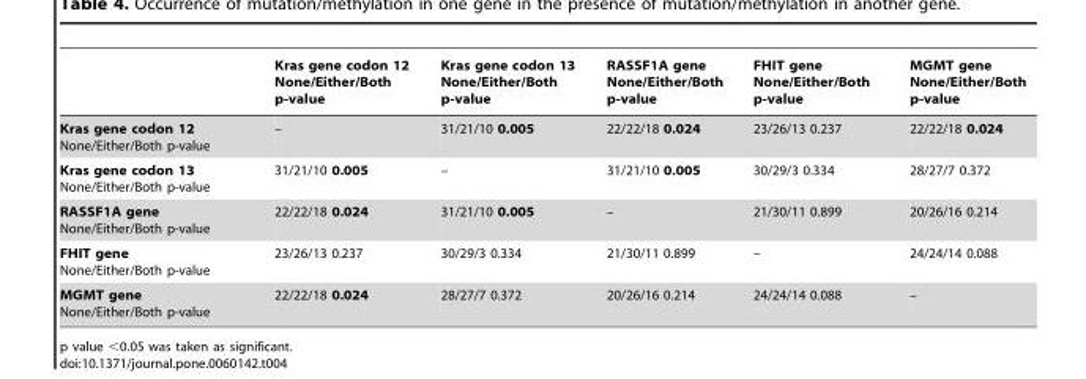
<table><thead><tr><td></td><td>Kras gene codon 12 None/Either/Both p-value</td><td>Kras gene codon 13 None/Either/Both p-value</td><td>RASSF1A gene None/Either/Both p-value</td><td>FHIT gene None/Either/Both p-value</td><td>MGMT gene None/Either/Both p-value</td></tr></thead><tbody><tr><td>Kras gene codon 12 None/Either/Both p-value</td><td>–</td><td>31/21/10 0.005</td><td>22/22/18 0.024</td><td>23/26/13 0.237</td><td>22/22/18 0.024</td></tr><tr><td>Kras gene codon 13 None/Either/Both p-value</td><td>31/21/10 0.005</td><td>–</td><td>31/21/10 0.005</td><td>30/29/3 0.334</td><td>28/27/7 0.372</td></tr><tr><td>RASSF1A gene None/Either/Both p-value</td><td>22/22/18 0.024</td><td>31/21/10 0.005</td><td>–</td><td>21/30/11 0.899</td><td>20/26/16 0.214</td></tr><tr><td>FHIT gene None/Either/Both p-value</td><td>23/26/13 0.237</td><td>30/29/3 0.334</td><td>21/30/11 0.899</td><td>–</td><td>24/24/14 0.088</td></tr><tr><td>MGMT gene None/Either/Both p-value</td><td>22/22/18 0.024</td><td>28/27/7 0.372</td><td>20/26/16 0.214</td><td>24/24/14 0.088</td><td>–</td></tr></tbody></table>